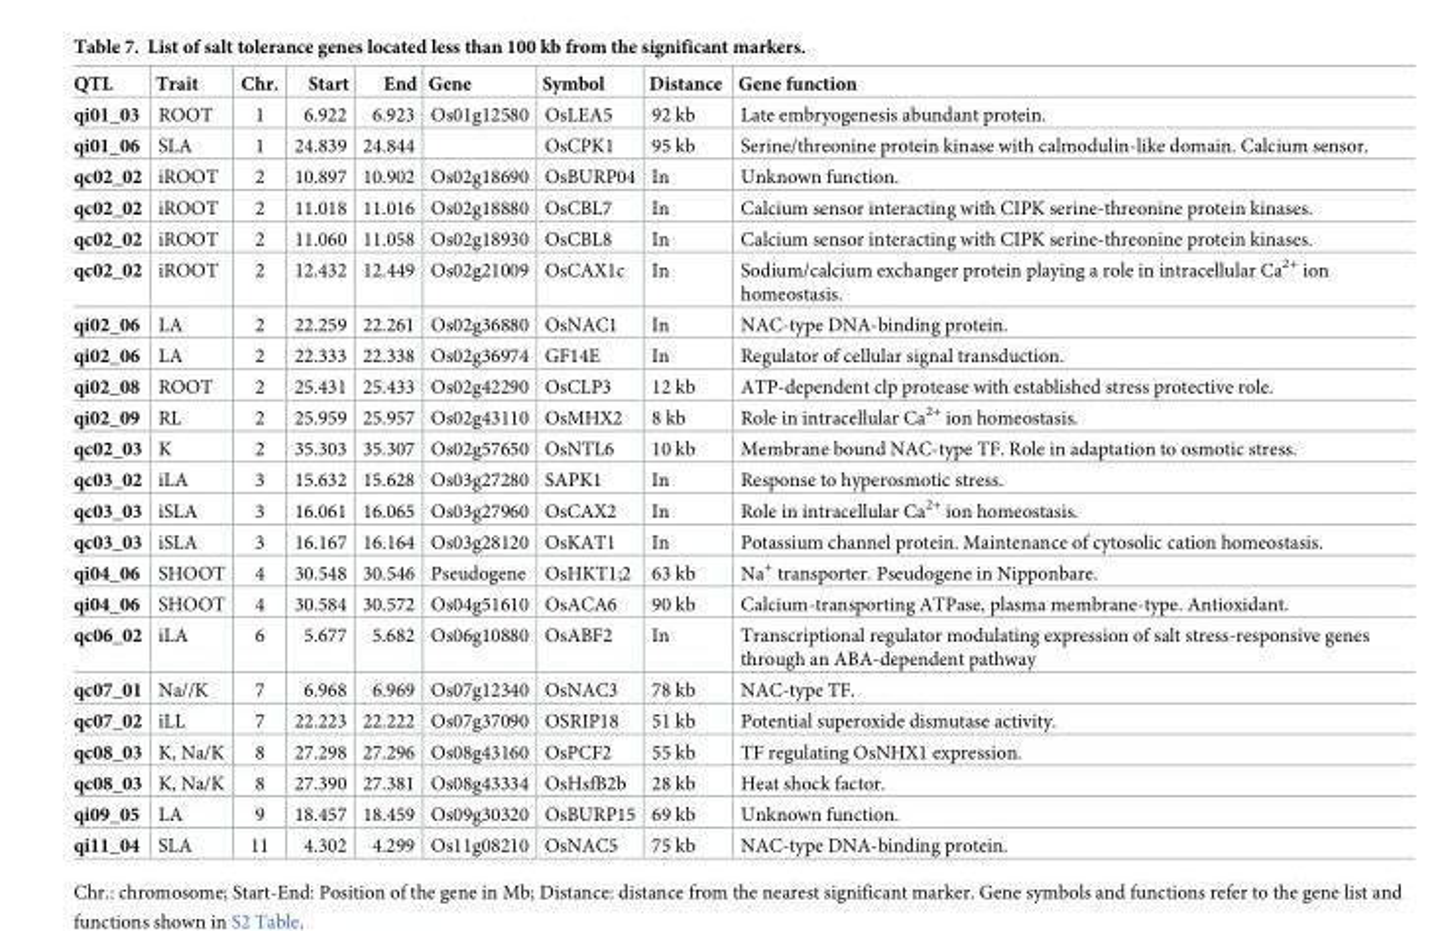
<table><thead><tr><td>QTL</td><td>Trait</td><td>Chr.</td><td>Start</td><td>End</td><td>Gene</td><td>Symbol</td><td>Distance</td><td>Gene function</td></tr></thead><tbody><tr><td>qi01_03</td><td>ROOT</td><td>1</td><td>6.922</td><td>6.923</td><td>Os01g12580</td><td>OsLEA5</td><td>92 kb</td><td>Late embryogenesis abundant protein.</td></tr><tr><td>qi01_06</td><td>SLA</td><td>1</td><td>24.839</td><td>24.844</td><td></td><td>OsCPK1</td><td>95 kb</td><td>Serine/threonine protein kinase with calmodulin-like domain. Calcium sensor.</td></tr><tr><td>qc02_02</td><td>iROOT</td><td>2</td><td>10.897</td><td>10.902</td><td>Os02g18690</td><td>OsBURP04</td><td>In</td><td>Unknown function.</td></tr><tr><td>qc02_02</td><td>iROOT</td><td>2</td><td>11.018</td><td>11.016</td><td>Os02g18880</td><td>OsCBL7</td><td>In</td><td>Calcium sensor interacting with CIPK serine-threonine protein kinases.</td></tr><tr><td>qc02_02</td><td>iROOT</td><td>2</td><td>11.060</td><td>11.058</td><td>Os02g18930</td><td>OsCBL8</td><td>In</td><td>Calcium sensor interacting with CIPK serine-threonine protein kinases.</td></tr><tr><td>qc02_02</td><td>iROOT</td><td>2</td><td>12.432</td><td>12.449</td><td>Os02g21009</td><td>OsCAX1c</td><td>In</td><td>Sodium/calcium exchanger protein playing a role in intracellular Ca<sup>2+</sup> ion homeostasis.</td></tr><tr><td>qi02_06</td><td>LA</td><td>2</td><td>22.259</td><td>22.261</td><td>Os02g36880</td><td>OsNAC1</td><td>In</td><td>NAC-type DNA-binding protein.</td></tr><tr><td>qi02_06</td><td>LA</td><td>2</td><td>22.333</td><td>22.338</td><td>Os02g36974</td><td>GF14E</td><td>In</td><td>Regulator of cellular signal transduction.</td></tr><tr><td>qi02_08</td><td>ROOT</td><td>2</td><td>25.431</td><td>25.433</td><td>Os02g42290</td><td>OsCLP3</td><td>12 kb</td><td>ATP-dependent clp protease with established stress protective role.</td></tr><tr><td>qi02_09</td><td>RL</td><td>2</td><td>25.959</td><td>25.957</td><td>Os02g43110</td><td>OsMHX2</td><td>8 kb</td><td>Role in intracellular Ca<sup>2+</sup> ion homeostasis.</td></tr><tr><td>qc02_03</td><td>K</td><td>2</td><td>35.303</td><td>35.307</td><td>Os02g57650</td><td>OsNTL6</td><td>10 kb</td><td>Membrane bound NAC-type TF. Role in adaptation to osmotic stress.</td></tr><tr><td>qc03_02</td><td>iLA</td><td>3</td><td>15.632</td><td>15.628</td><td>Os03g27280</td><td>SAPK1</td><td>In</td><td>Response to hyperosmotic stress.</td></tr><tr><td>qc03_03</td><td>iSLA</td><td>3</td><td>16.061</td><td>16.065</td><td>Os03g27960</td><td>OsCAX2</td><td>In</td><td>Role in intracellular Ca<sup>2+</sup> ion homeostasis.</td></tr><tr><td>qc03_03</td><td>iSLA</td><td>3</td><td>16.167</td><td>16.164</td><td>Os03g28120</td><td>OsKAT1</td><td>In</td><td>Potassium channel protein. Maintenance of cytosolic cation homeostasis.</td></tr><tr><td>qi04_06</td><td>SHOOT</td><td>4</td><td>30.548</td><td>30.546</td><td>Pseudogene</td><td>OsHKT1;2</td><td>63 kb</td><td>Na<sup>+</sup> transporter. Pseudogene in Nipponbare.</td></tr><tr><td>qi04_06</td><td>SHOOT</td><td>4</td><td>30.584</td><td>30.572</td><td>Os04g51610</td><td>OsACA6</td><td>90 kb</td><td>Calcium-transporting ATPase, plasma membrane-type. Antioxidant.</td></tr><tr><td>qc06_02</td><td>iLA</td><td>6</td><td>5.677</td><td>5.682</td><td>Os06g10880</td><td>OsABF2</td><td>In</td><td>Transcriptional regulator modulating expression of salt stress-responsive genes through an ABA-dependent pathway</td></tr><tr><td>qc07_01</td><td>Na//K</td><td>7</td><td>6.968</td><td>6.969</td><td>Os07g12340</td><td>OsNAC3</td><td>78 kb</td><td>NAC-type TF.</td></tr><tr><td>qc07_02</td><td>iLL</td><td>7</td><td>22.223</td><td>22.222</td><td>Os07g37090</td><td>OSRIP18</td><td>51 kb</td><td>Potential superoxide dismutase activity.</td></tr><tr><td>qc08_03</td><td>K, Na/K</td><td>8</td><td>27.298</td><td>27.296</td><td>Os08g43160</td><td>OsPCF2</td><td>55 kb</td><td>TF regulating OsNHX1 expression.</td></tr><tr><td>qc08_03</td><td>K, Na/K</td><td>8</td><td>27.390</td><td>27.381</td><td>Os08g43334</td><td>OsHsfB2b</td><td>28 kb</td><td>Heat shock factor.</td></tr><tr><td>qi09_05</td><td>LA</td><td>9</td><td>18.457</td><td>18.459</td><td>Os09g30320</td><td>OsBURP15</td><td>69 kb</td><td>Unknown function.</td></tr><tr><td>qi11_04</td><td>SLA</td><td>11</td><td>4.302</td><td>4.299</td><td>Os11g08210</td><td>OsNAC5</td><td>75 kb</td><td>NAC-type DNA-binding protein.</td></tr></tbody></table>